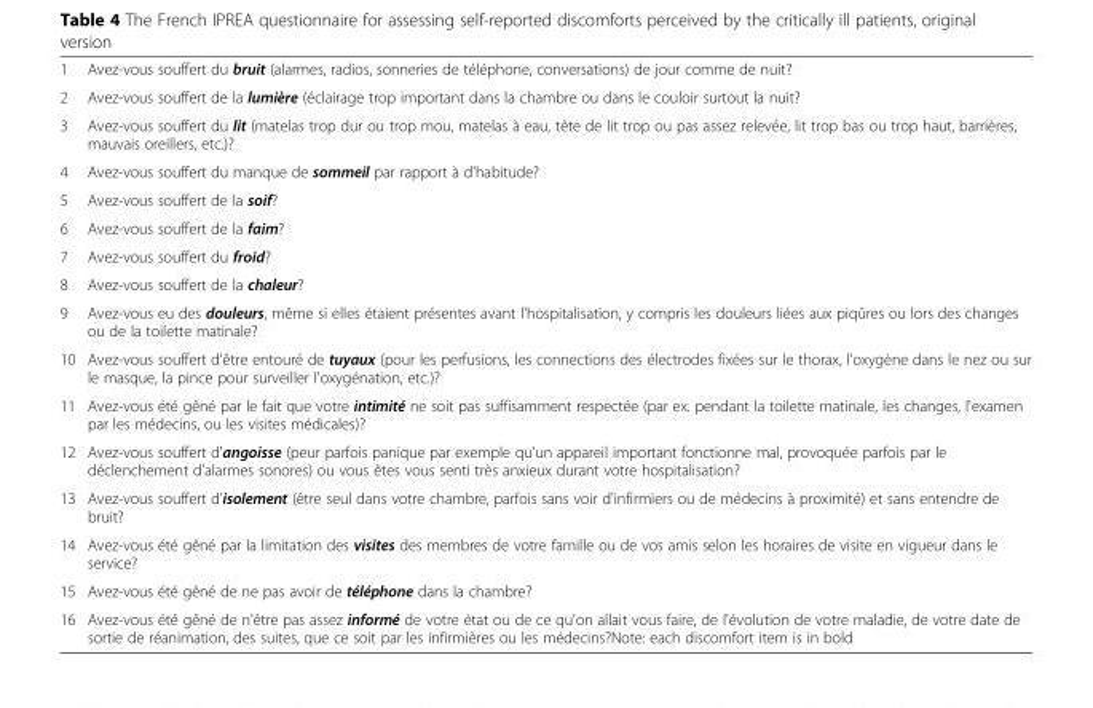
<table><tbody><tr><td>1</td><td>Avez-vous souffert du bruit (alarmes, radios, sonneries de téléphone, conversations) de jour comme de nuit?</td></tr><tr><td>2</td><td>Avez-vous souffert de la lumière (éclairage trop important dans la chambre ou dans le couloir surtout la nuit?</td></tr><tr><td>3</td><td>Avez-vous souffert du lit (matelas trop dur ou trop mou, matelas à eau, tête de lit trop ou pas assez relevée, lit trop bas ou trop haut, barrières, mauvais oreillers, etc.)?</td></tr><tr><td>4</td><td>Avez-vous souffert du manque de sommeil par rapport à d&#x27;habitude?</td></tr><tr><td>5</td><td>Avez-vous souffert de la soif?</td></tr><tr><td>6</td><td>Avez-vous souffert de la faim?</td></tr><tr><td>7</td><td>Avez-vous souffert du froid?</td></tr><tr><td>8</td><td>Avez-vous souffert de la chaleur?</td></tr><tr><td>9</td><td>Avez-vous eu des douleurs, même si elles étaient présentes avant l&#x27;hospitalisation, y compris les douleurs liées aux piqûres ou lors des changes ou de la toilette matinale?</td></tr><tr><td>10</td><td>Avez-vous souffert d&#x27;être entouré de tuyaux (pour les perfusions, les connections des électrodes fixées sur le thorax, l&#x27;oxygène dans le nez ou sur le masque, la pince pour surveiller l&#x27;oxygénation, etc.)?</td></tr><tr><td>11</td><td>Avez-vous été gêné par le fait que votre intimité ne soit pas suffisamment respectée (par ex. pendant la toilette matinale, les changes, l&#x27;examen par les médecins, ou les visites médicales)?</td></tr><tr><td>12</td><td>Avez-vous souffert d&#x27;angoisse (peur parfois panique par exemple qu&#x27;un appareil important fonctionne mal, provoquée parfois par le déclenchement d’alarmes sonores) ou vous êtes vous senti très anxieux durant votre hospitalisation?</td></tr><tr><td>13</td><td>Avez-vous souffert d’isolement (être seul dans votre chambre, parfois sans voir d&#x27;infirmiers ou de médecins à proximité) et sans entendre de bruit?</td></tr><tr><td>14</td><td>Avez-vous été gêné par la limitation des visites des membres de votre famille ou de vos amis selon les horaires de visite en vigueur dans le service?</td></tr><tr><td>15</td><td>Avez-vous été gêné de ne pas avoir de téléphone dans la chambre?</td></tr><tr><td>16</td><td>Avez-vous été gêné de n&#x27;être pas assez informé de votre état ou de ce qu&#x27;on allait vous faire, de l&#x27;évolution de votre maladie, de votre date de sortie de réanimation, des suites, que ce soit par les infirmières ou les médecins?Note: each discomfort item is in bold</td></tr></tbody></table>